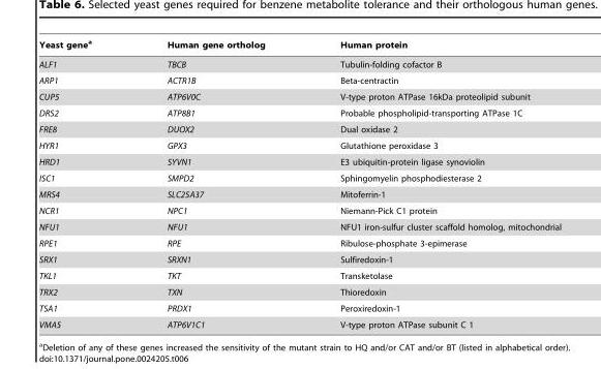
<table><thead><tr><td>Yeast gene<sup>a</sup></td><td>Human gene ortholog</td><td>Human protein</td></tr></thead><tbody><tr><td>ALF1</td><td>TBCB</td><td>Tubulin-folding cofactor B</td></tr><tr><td>ARP1</td><td>ACTR1B</td><td>Beta-centractin</td></tr><tr><td>CUP5</td><td>ATP6V0C</td><td>V-type proton ATPase 16kDa proteolipid subunit</td></tr><tr><td>DRS2</td><td>ATP8B1</td><td>Probable phospholipid-transporting ATPase 1C</td></tr><tr><td>FRE8</td><td>DUOX2</td><td>Dual oxidase 2</td></tr><tr><td>HYR1</td><td>GPX3</td><td>Glutathione peroxidase 3</td></tr><tr><td>HRD1</td><td>SYVN1</td><td>E3 ubiquitin-protein ligase synoviolin</td></tr><tr><td>ISC1</td><td>SMPD2</td><td>Sphingomyelin phosphodiesterase 2</td></tr><tr><td>MRS4</td><td>SLC25A37</td><td>Mitoferrin-1</td></tr><tr><td>NCR1</td><td>NPC1</td><td>Niemann-Pick C1 protein</td></tr><tr><td>NFU1</td><td>NFU1</td><td>NFU1 iron-sulfur cluster scaffold homolog, mitochondrial</td></tr><tr><td>RPE1</td><td>RPE</td><td>Ribulose-phosphate 3-epimerase</td></tr><tr><td>SRX1</td><td>SRXN1</td><td>Sulfiredoxin-1</td></tr><tr><td>TKL1</td><td>TKT</td><td>Transketolase</td></tr><tr><td>TRX2</td><td>TXN</td><td>Thioredoxin</td></tr><tr><td>TSA1</td><td>PRDX1</td><td>Peroxiredoxin-1</td></tr><tr><td>VMA5</td><td>ATP6V1C1</td><td>V-type proton ATPase subunit C 1</td></tr></tbody></table>